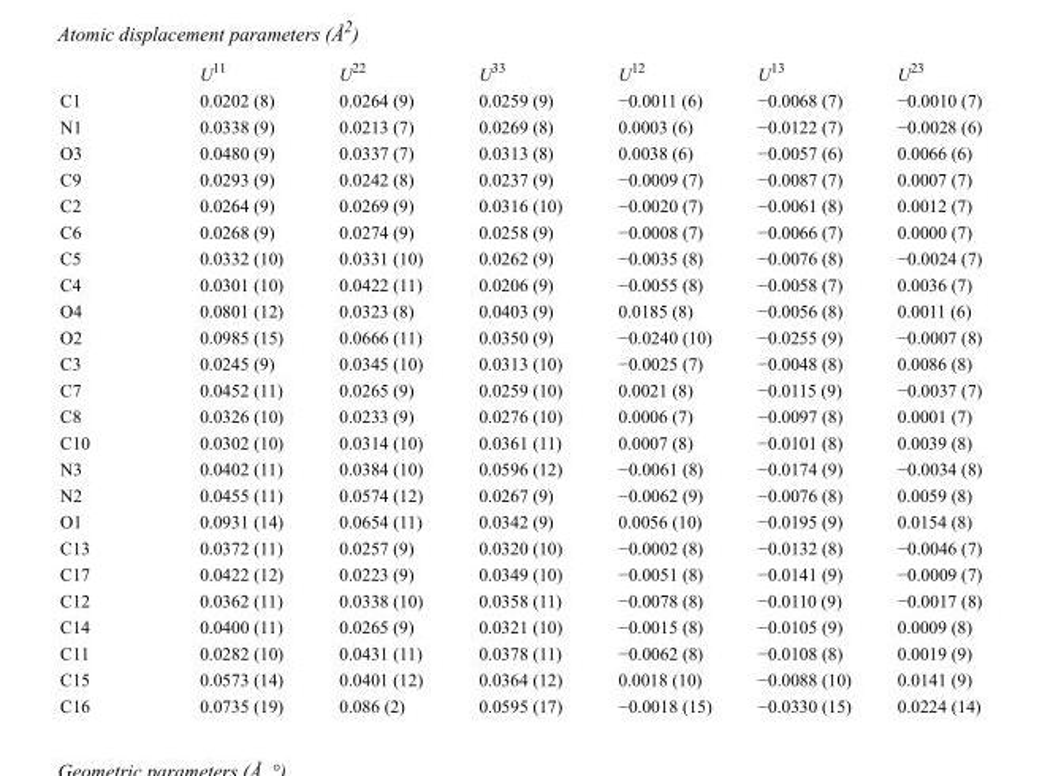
<table><thead><tr><td></td><td>U<sup>11</sup></td><td>U<sup>22</sup></td><td>U<sup>33</sup></td><td>U<sup>12</sup></td><td>U<sup>13</sup></td><td>U<sup>23</sup></td></tr></thead><tbody><tr><td>C1</td><td>0.0202 (8)</td><td>0.0264 (9)</td><td>0.0259 (9)</td><td>−0.0011 (6)</td><td>−0.0068 (7)</td><td>−0.0010 (7)</td></tr><tr><td>N1</td><td>0.0338 (9)</td><td>0.0213 (7)</td><td>0.0269 (8)</td><td>0.0003 (6)</td><td>−0.0122 (7)</td><td>−0.0028 (6)</td></tr><tr><td>O3</td><td>0.0480 (9)</td><td>0.0337 (7)</td><td>0.0313 (8)</td><td>0.0038 (6)</td><td>−0.0057 (6)</td><td>0.0066 (6)</td></tr><tr><td>C9</td><td>0.0293 (9)</td><td>0.0242 (8)</td><td>0.0237 (9)</td><td>−0.0009 (7)</td><td>−0.0087 (7)</td><td>0.0007 (7)</td></tr><tr><td>C2</td><td>0.0264 (9)</td><td>0.0269 (9)</td><td>0.0316 (10)</td><td>−0.0020 (7)</td><td>−0.0061 (8)</td><td>0.0012 (7)</td></tr><tr><td>C6</td><td>0.0268 (9)</td><td>0.0274 (9)</td><td>0.0258 (9)</td><td>−0.0008 (7)</td><td>−0.0066 (7)</td><td>0.0000 (7)</td></tr><tr><td>C5</td><td>0.0332 (10)</td><td>0.0331 (10)</td><td>0.0262 (9)</td><td>−0.0035 (8)</td><td>−0.0076 (8)</td><td>−0.0024 (7)</td></tr><tr><td>C4</td><td>0.0301 (10)</td><td>0.0422 (11)</td><td>0.0206 (9)</td><td>−0.0055 (8)</td><td>−0.0058 (7)</td><td>0.0036 (7)</td></tr><tr><td>O4</td><td>0.0801 (12)</td><td>0.0323 (8)</td><td>0.0403 (9)</td><td>0.0185 (8)</td><td>−0.0056 (8)</td><td>0.0011 (6)</td></tr><tr><td>O2</td><td>0.0985 (15)</td><td>0.0666 (11)</td><td>0.0350 (9)</td><td>−0.0240 (10)</td><td>−0.0255 (9)</td><td>−0.0007 (8)</td></tr><tr><td>C3</td><td>0.0245 (9)</td><td>0.0345 (10)</td><td>0.0313 (10)</td><td>−0.0025 (7)</td><td>−0.0048 (8)</td><td>0.0086 (8)</td></tr><tr><td>C7</td><td>0.0452 (11)</td><td>0.0265 (9)</td><td>0.0259 (10)</td><td>0.0021 (8)</td><td>−0.0115 (9)</td><td>−0.0037 (7)</td></tr><tr><td>C8</td><td>0.0326 (10)</td><td>0.0233 (9)</td><td>0.0276 (10)</td><td>0.0006 (7)</td><td>−0.0097 (8)</td><td>0.0001 (7)</td></tr><tr><td>C10</td><td>0.0302 (10)</td><td>0.0314 (10)</td><td>0.0361 (11)</td><td>0.0007 (8)</td><td>−0.0101 (8)</td><td>0.0039 (8)</td></tr><tr><td>N3</td><td>0.0402 (11)</td><td>0.0384 (10)</td><td>0.0596 (12)</td><td>−0.0061 (8)</td><td>−0.0174 (9)</td><td>−0.0034 (8)</td></tr><tr><td>N2</td><td>0.0455 (11)</td><td>0.0574 (12)</td><td>0.0267 (9)</td><td>−0.0062 (9)</td><td>−0.0076 (8)</td><td>0.0059 (8)</td></tr><tr><td>O1</td><td>0.0931 (14)</td><td>0.0654 (11)</td><td>0.0342 (9)</td><td>0.0056 (10)</td><td>−0.0195 (9)</td><td>0.0154 (8)</td></tr><tr><td>C13</td><td>0.0372 (11)</td><td>0.0257 (9)</td><td>0.0320 (10)</td><td>−0.0002 (8)</td><td>−0.0132 (8)</td><td>−0.0046 (7)</td></tr><tr><td>C17</td><td>0.0422 (12)</td><td>0.0223 (9)</td><td>0.0349 (10)</td><td>−0.0051 (8)</td><td>−0.0141 (9)</td><td>−0.0009 (7)</td></tr><tr><td>C12</td><td>0.0362 (11)</td><td>0.0338 (10)</td><td>0.0358 (11)</td><td>−0.0078 (8)</td><td>−0.0110 (9)</td><td>−0.0017 (8)</td></tr><tr><td>C14</td><td>0.0400 (11)</td><td>0.0265 (9)</td><td>0.0321 (10)</td><td>−0.0015 (8)</td><td>−0.0105 (9)</td><td>0.0009 (8)</td></tr><tr><td>C11</td><td>0.0282 (10)</td><td>0.0431 (11)</td><td>0.0378 (11)</td><td>−0.0062 (8)</td><td>−0.0108 (8)</td><td>0.0019 (9)</td></tr><tr><td>C15</td><td>0.0573 (14)</td><td>0.0401 (12)</td><td>0.0364 (12)</td><td>0.0018 (10)</td><td>−0.0088 (10)</td><td>0.0141 (9)</td></tr><tr><td>C16</td><td>0.0735 (19)</td><td>0.086 (2)</td><td>0.0595 (17)</td><td>−0.0018 (15)</td><td>−0.0330 (15)</td><td>0.0224 (14)</td></tr></tbody></table>